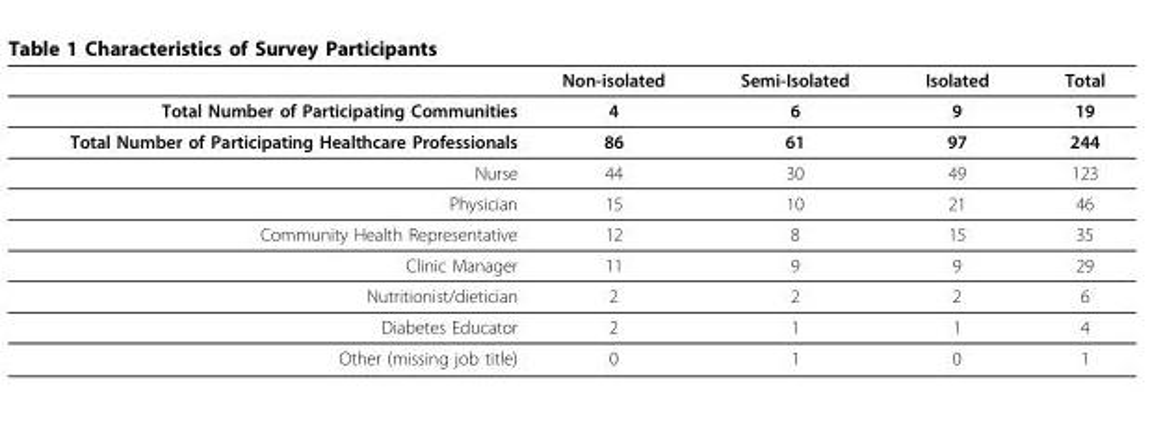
<table><thead><tr><td></td><td>Non-isolated</td><td>Semi-Isolated</td><td>Isolated</td><td>Total</td></tr></thead><tbody><tr><td>Total Number of Participating Communities</td><td>4</td><td>6</td><td>9</td><td>19</td></tr><tr><td>Total Number of Participating Healthcare Professionals</td><td>86</td><td>61</td><td>97</td><td>244</td></tr><tr><td>Nurse</td><td>44</td><td>30</td><td>49</td><td>123</td></tr><tr><td>Physician</td><td>15</td><td>10</td><td>21</td><td>46</td></tr><tr><td>Community Health Representative</td><td>12</td><td>8</td><td>15</td><td>35</td></tr><tr><td>Clinic Manager</td><td>11</td><td>9</td><td>9</td><td>29</td></tr><tr><td>Nutritionist/dietician</td><td>2</td><td>2</td><td>2</td><td>6</td></tr><tr><td>Diabetes Educator</td><td>2</td><td>1</td><td>1</td><td>4</td></tr><tr><td>Other (missing job title)</td><td>0</td><td>1</td><td>0</td><td>1</td></tr></tbody></table>